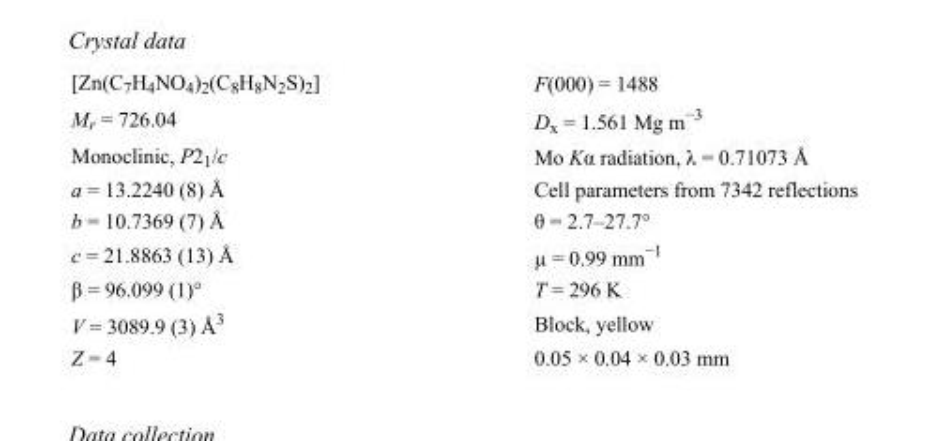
<table><tbody><tr><td>[Zn(C<sub>7</sub>H<sub>4</sub>NO<sub>4</sub>)<sub>2</sub>(C<sub>8</sub>H<sub>8</sub>N<sub>2</sub>S)<sub>2</sub>]</td><td>F(000) = 1488</td></tr><tr><td>M<sub>r</sub> = 726.04</td><td>D<sub>x</sub> = 1.561 Mg m<sup>−3</sup></td></tr><tr><td>Monoclinic, P2<sub>1</sub>/c</td><td>Mo Kα radiation, λ = 0.71073 Å</td></tr><tr><td>a = 13.2240 (8) Å</td><td>Cell parameters from 7342 reflections</td></tr><tr><td>b = 10.7369 (7) Å</td><td>θ = 2.7–27.7°</td></tr><tr><td>c = 21.8863 (13) Å</td><td>µ = 0.99 mm<sup>−1</sup></td></tr><tr><td>β = 96.099 (1)°</td><td>T = 296 K</td></tr><tr><td>V = 3089.9 (3) Å<sup>3</sup></td><td>Block, yellow</td></tr><tr><td>Z = 4</td><td>0.05 × 0.04 × 0.03 mm</td></tr></tbody></table>